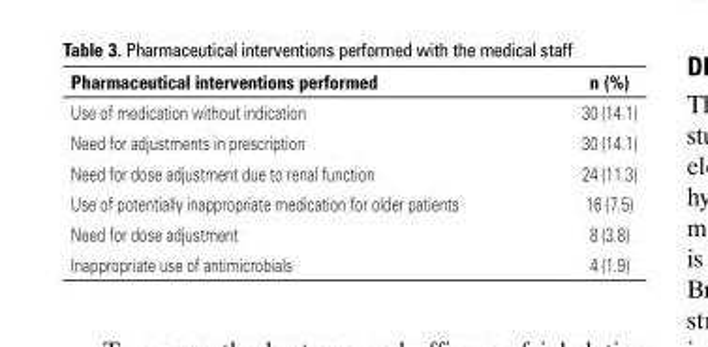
<table><thead><tr><td>Pharmaceutical interventions performed</td><td>n (%)</td></tr></thead><tbody><tr><td>Use of medication without indication</td><td>30 (14.1)</td></tr><tr><td>Need for adjustments in prescription</td><td>30 (14.1)</td></tr><tr><td>Need for dose adjustment due to renal function</td><td>24 (11.3)</td></tr><tr><td>Use of potentially inappropriate medication for older patients</td><td>16 (7.5)</td></tr><tr><td>Need for dose adjustment</td><td>8 (3.8)</td></tr><tr><td>Inappropriate use of antimicrobials</td><td>4 (1.9)</td></tr></tbody></table>